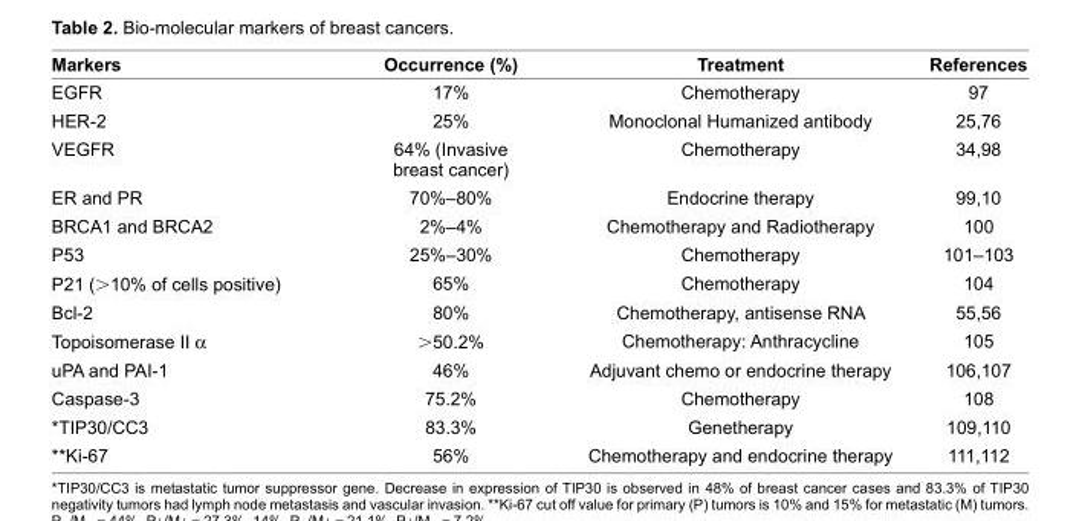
<table><thead><tr><td>Markers</td><td>Occurrence (%)</td><td>Treatment</td><td>References</td></tr></thead><tbody><tr><td>eGFR</td><td>17%</td><td>Chemotherapy</td><td>97</td></tr><tr><td>HeR-2</td><td>25%</td><td>Monoclonal Humanized antibody</td><td>25,76</td></tr><tr><td>veGFR</td><td>64% (invasive breast cancer)</td><td>Chemotherapy</td><td>34,98</td></tr><tr><td>eR and PR</td><td>70%–80%</td><td>endocrine therapy</td><td>99,10</td></tr><tr><td>BRCA1 and BRCA2</td><td>2%–4%</td><td>Chemotherapy and Radiotherapy</td><td>100</td></tr><tr><td>P53</td><td>25%–30%</td><td>Chemotherapy</td><td>101–103</td></tr><tr><td>P21 (&gt;10% of cells positive)</td><td>65%</td><td>Chemotherapy</td><td>104</td></tr><tr><td>Bcl-2</td><td>80%</td><td>Chemotherapy, antisense RNA</td><td>55,56</td></tr><tr><td>Topoisomerase ii α</td><td>&gt;50.2%</td><td>Chemotherapy: Anthracycline</td><td>105</td></tr><tr><td>uPA and PAi-1</td><td>46%</td><td>Adjuvant chemo or endocrine therapy</td><td>106,107</td></tr><tr><td>Caspase-3</td><td>75.2%</td><td>Chemotherapy</td><td>108</td></tr><tr><td>*TiP30/CC3</td><td>83.3%</td><td>Genetherapy</td><td>109,110</td></tr><tr><td>**Ki-67</td><td>56%</td><td>Chemotherapy and endocrine therapy</td><td>111,112</td></tr></tbody></table>